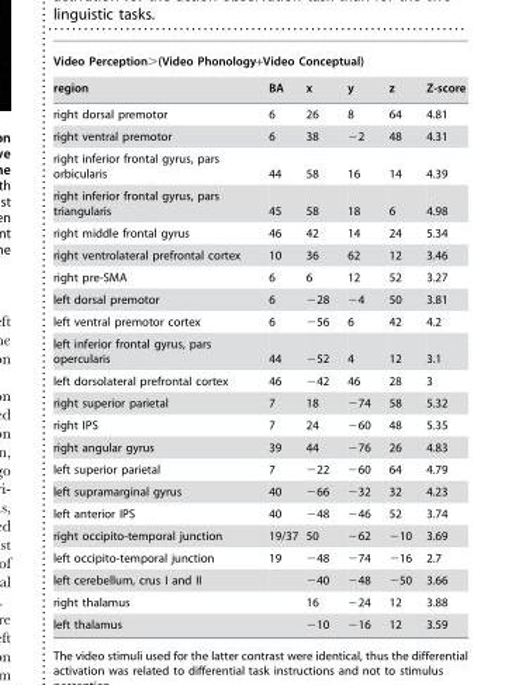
<table><thead><tr><td colspan="6">Video Perception&gt;(Video Phonology+Video Conceptual)</td></tr><tr><td>region</td><td>BA</td><td>x</td><td>y</td><td>z</td><td>Z-score</td></tr></thead><tbody><tr><td>right dorsal premotor</td><td>6</td><td>26</td><td>8</td><td>64</td><td>4.81</td></tr><tr><td>right ventral premotor</td><td>6</td><td>38</td><td>−2</td><td>48</td><td>4.31</td></tr><tr><td>right inferior frontal gyrus, pars orbicularis</td><td>44</td><td>58</td><td>16</td><td>14</td><td>4.39</td></tr><tr><td>right inferior frontal gyrus, pars triangularis</td><td>45</td><td>58</td><td>18</td><td>6</td><td>4.98</td></tr><tr><td>right middle frontal gyrus</td><td>46</td><td>42</td><td>14</td><td>24</td><td>5.34</td></tr><tr><td>right ventrolateral prefrontal cortex</td><td>10</td><td>36</td><td>62</td><td>12</td><td>3.46</td></tr><tr><td>right pre-SMA</td><td>6</td><td>6</td><td>12</td><td>52</td><td>3.27</td></tr><tr><td>left dorsal premotor</td><td>6</td><td>−28</td><td>−4</td><td>50</td><td>3.81</td></tr><tr><td>left ventral premotor cortex</td><td>6</td><td>−56</td><td>6</td><td>42</td><td>4.2</td></tr><tr><td>left inferior frontal gyrus, pars opercularis</td><td>44</td><td>−52</td><td>4</td><td>12</td><td>3.1</td></tr><tr><td>left dorsolateral prefrontal cortex</td><td>46</td><td>−42</td><td>46</td><td>28</td><td>3</td></tr><tr><td>right superior parietal</td><td>7</td><td>18</td><td>−74</td><td>58</td><td>5.32</td></tr><tr><td>right IPS</td><td>7</td><td>24</td><td>−60</td><td>48</td><td>5.35</td></tr><tr><td>right angular gyrus</td><td>39</td><td>44</td><td>−76</td><td>26</td><td>4.83</td></tr><tr><td>left superior parietal</td><td>7</td><td>−22</td><td>−60</td><td>64</td><td>4.79</td></tr><tr><td>left supramarginal gyrus</td><td>40</td><td>−66</td><td>−32</td><td>32</td><td>4.23</td></tr><tr><td>left anterior IPS</td><td>40</td><td>−48</td><td>−46</td><td>52</td><td>3.74</td></tr><tr><td>right occipito-temporal junction</td><td>19/37</td><td>50</td><td>−62</td><td>−10</td><td>3.69</td></tr><tr><td>left occipito-temporal junction</td><td>19</td><td>−48</td><td>−74</td><td>−16</td><td>2.7</td></tr><tr><td>left cerebellum, crus I and II</td><td></td><td>−40</td><td>−48</td><td>−50</td><td>3.66</td></tr><tr><td>right thalamus</td><td></td><td>16</td><td>−24</td><td>12</td><td>3.88</td></tr><tr><td>left thalamus</td><td></td><td>−10</td><td>−16</td><td>12</td><td>3.59</td></tr></tbody></table>